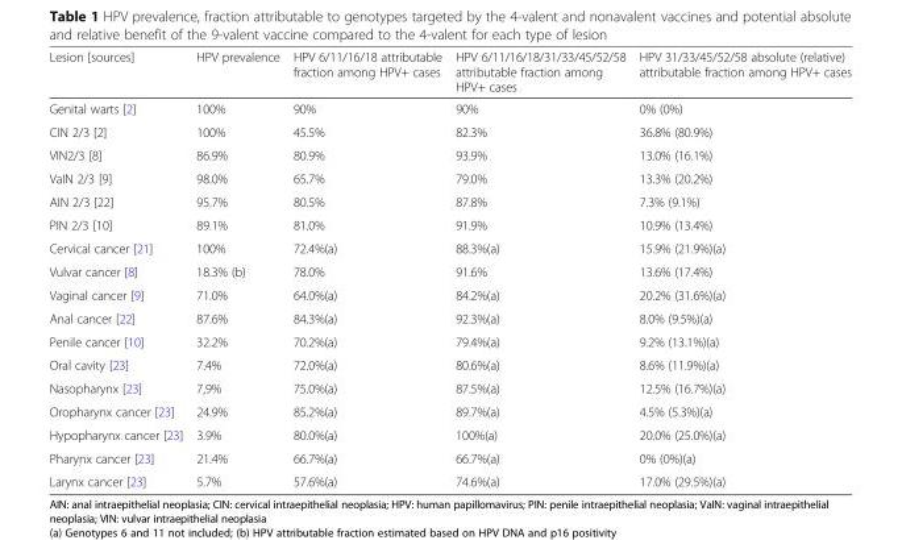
<table><thead><tr><td>Lesion [sources]</td><td>HPV prevalence</td><td>HPV 6/11/16/18 attributable fraction among HPV+ cases</td><td>HPV 6/11/16/18/31/33/45/52/58 attributable fraction among HPV+ cases</td><td>HPV 31/33/45/52/58 absolute (relative) attributable fraction among HPV+ cases</td></tr></thead><tbody><tr><td>Genital warts [2]</td><td>100%</td><td>90%</td><td>90%</td><td>0% (0%)</td></tr><tr><td>CIN 2/3 [2]</td><td>100%</td><td>45.5%</td><td>82.3%</td><td>36.8% (80.9%)</td></tr><tr><td>VIN2/3 [8]</td><td>86.9%</td><td>80.9%</td><td>93.9%</td><td>13.0% (16.1%)</td></tr><tr><td>VaIN 2/3 [9]</td><td>98.0%</td><td>65.7%</td><td>79.0%</td><td>13.3% (20.2%)</td></tr><tr><td>AIN 2/3 [22]</td><td>95.7%</td><td>80.5%</td><td>87.8%</td><td>7.3% (9.1%)</td></tr><tr><td>PIN 2/3 [10]</td><td>89.1%</td><td>81.0%</td><td>91.9%</td><td>10.9% (13.4%)</td></tr><tr><td>Cervical cancer [21]</td><td>100%</td><td>72.4%(a)</td><td>88.3%(a)</td><td>15.9% (21.9%)(a)</td></tr><tr><td>Vulvar cancer [8]</td><td>18.3% (b)</td><td>78.0%</td><td>91.6%</td><td>13.6% (17.4%)</td></tr><tr><td>Vaginal cancer [9]</td><td>71.0%</td><td>64.0%(a)</td><td>84.2%(a)</td><td>20.2% (31.6%)(a)</td></tr><tr><td>Anal cancer [22]</td><td>87.6%</td><td>84.3%(a)</td><td>92.3%(a)</td><td>8.0% (9.5%)(a)</td></tr><tr><td>Penile cancer [10]</td><td>32.2%</td><td>70.2%(a)</td><td>79.4%(a)</td><td>9.2% (13.1%)(a)</td></tr><tr><td>Oral cavity [23]</td><td>7.4%</td><td>72.0%(a)</td><td>80.6%(a)</td><td>8.6% (11.9%)(a)</td></tr><tr><td>Nasopharynx [23]</td><td>7,9%</td><td>75.0%(a)</td><td>87.5%(a)</td><td>12.5% (16.7%)(a)</td></tr><tr><td>Oropharynx cancer [23]</td><td>24.9%</td><td>85.2%(a)</td><td>89.7%(a)</td><td>4.5% (5.3%)(a)</td></tr><tr><td>Hypopharynx cancer [23]</td><td>3.9%</td><td>80.0%(a)</td><td>100%(a)</td><td>20.0% (25.0%)(a)</td></tr><tr><td>Pharynx cancer [23]</td><td>21.4%</td><td>66.7%(a)</td><td>66.7%(a)</td><td>0% (0%)(a)</td></tr><tr><td>Larynx cancer [23]</td><td>5.7%</td><td>57.6%(a)</td><td>74.6%(a)</td><td>17.0% (29.5%)(a)</td></tr></tbody></table>